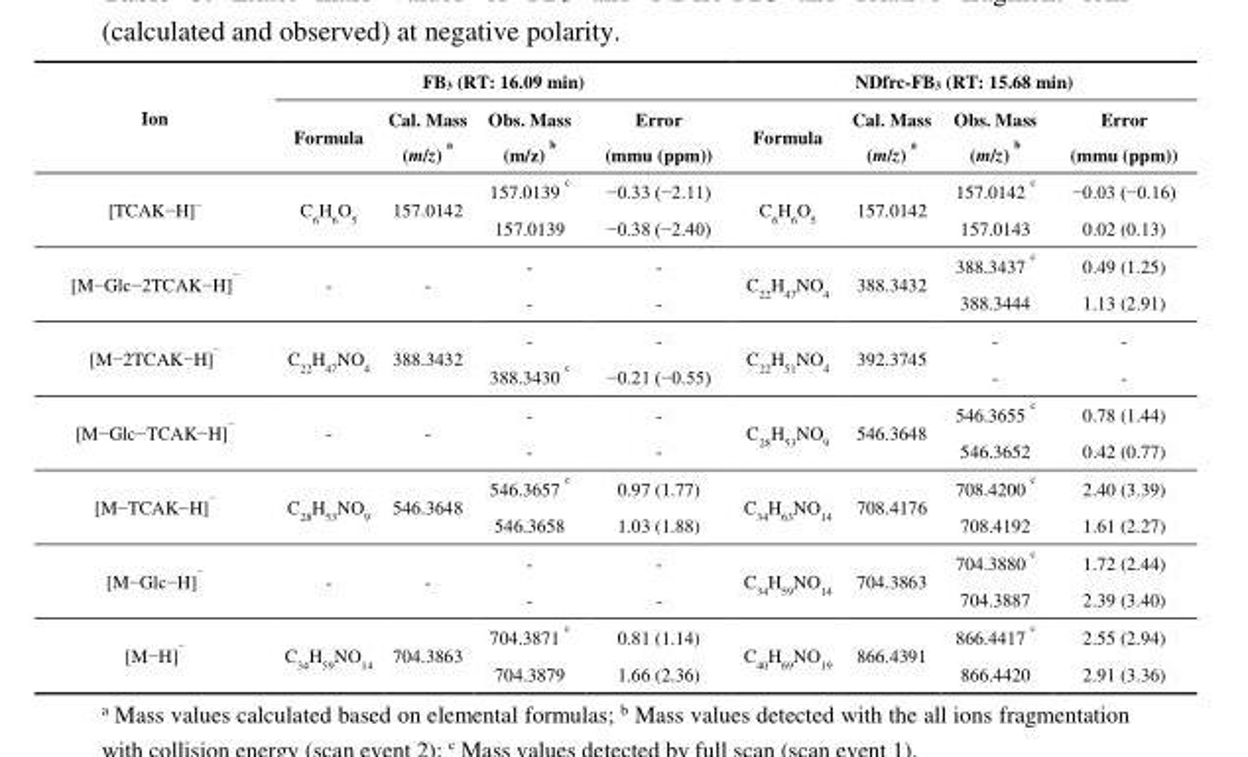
<table><thead><tr><td rowspan="2">Ion</td><td colspan="4">FB<sub>3</sub> (RT: 16.09 min)</td><td colspan="4">NDfrc-FB<sub>3</sub> (RT: 15.68 min)</td></tr><tr><td>Formula</td><td>Cal. Mass (m/z) <sup>a</sup></td><td>Obs. Mass (m/z) <sup>b</sup></td><td>Error (mmu (ppm))</td><td>Formula</td><td>Cal. Mass (m/z) <sup>a</sup></td><td>Obs. Mass (m/z) <sup>b</sup></td><td>Error (mmu (ppm))</td></tr></thead><tbody><tr><td rowspan="2">[TCAK−H]<sup>−</sup></td><td rowspan="2">C<sub>6</sub>H<sub>6</sub>O<sub>5</sub></td><td rowspan="2">157.0142</td><td>157.0139 <sup>c</sup></td><td>−0.33 (−2.11)</td><td rowspan="2">C<sub>6</sub>H<sub>6</sub>O<sub>5</sub></td><td rowspan="2">157.0142</td><td>157.0142 <sup>c</sup></td><td>−0.03 (−0.16)</td></tr><tr><td>157.0139</td><td>−0.38 (−2.40)</td><td>157.0143</td><td>0.02 (0.13)</td></tr><tr><td rowspan="2">[M−Glc−2TCAK−H] <sup>−</sup></td><td rowspan="2">-</td><td rowspan="2">-</td><td>-</td><td>-</td><td rowspan="2">C<sub>22</sub>H<sub>47</sub>NO<sub>4</sub></td><td rowspan="2">388.3432</td><td>388.3437 <sup>c</sup></td><td>0.49 (1.25)</td></tr><tr><td>-</td><td>-</td><td>388.3444</td><td>1.13 (2.91)</td></tr><tr><td rowspan="2">[M−2TCAK−H] <sup>−</sup></td><td rowspan="2">C<sub>22</sub>H<sub>47</sub>NO<sub>4</sub></td><td rowspan="2">388.3432</td><td>-</td><td>-</td><td rowspan="2">C<sub>22</sub>H<sub>51</sub>NO<sub>4</sub></td><td rowspan="2">392.3745</td><td>-</td><td>-</td></tr><tr><td>388.3430 <sup>c</sup></td><td>−0.21 (−0.55)</td><td>-</td><td>-</td></tr><tr><td rowspan="2">[M−Glc−TCAK−H] <sup>−</sup></td><td rowspan="2">-</td><td rowspan="2">-</td><td>-</td><td>-</td><td rowspan="2">C<sub>28</sub>H<sub>53</sub>NO<sub>9</sub></td><td rowspan="2">546.3648</td><td>546.3655 <sup>c</sup></td><td>0.78 (1.44)</td></tr><tr><td>-</td><td>-</td><td>546.3652</td><td>0.42 (0.77)</td></tr><tr><td rowspan="2">[M−TCAK−H] <sup>−</sup></td><td rowspan="2">C<sub>28</sub>H<sub>53</sub>NO<sub>9</sub></td><td rowspan="2">546.3648</td><td>546.3657 <sup>c</sup></td><td>0.97 (1.77)</td><td rowspan="2">C<sub>34</sub>H<sub>63</sub>NO<sub>14</sub></td><td rowspan="2">708.4176</td><td>708.4200 <sup>c</sup></td><td>2.40 (3.39)</td></tr><tr><td>546.3658</td><td>1.03 (1.88)</td><td>708.4192</td><td>1.61 (2.27)</td></tr><tr><td rowspan="2">[M−Glc−H] <sup>−</sup></td><td rowspan="2">-</td><td rowspan="2">-</td><td>-</td><td>-</td><td rowspan="2">C<sub>34</sub>H<sub>59</sub>NO<sub>14</sub></td><td rowspan="2">704.3863</td><td>704.3880 <sup>c</sup></td><td>1.72 (2.44)</td></tr><tr><td>-</td><td>-</td><td>704.3887</td><td>2.39 (3.40)</td></tr><tr><td rowspan="2">[M−H] <sup>−</sup></td><td rowspan="2">C<sub>34</sub>H<sub>59</sub>NO<sub>14</sub></td><td rowspan="2">704.3863</td><td>704.3871 <sup>c</sup></td><td>0.81 (1.14)</td><td rowspan="2">C<sub>40</sub>H<sub>69</sub>NO<sub>19</sub></td><td rowspan="2">866.4391</td><td>866.4417 <sup>c</sup></td><td>2.55 (2.94)</td></tr><tr><td>704.3879</td><td>1.66 (2.36)</td><td>866.4420</td><td>2.91 (3.36)</td></tr></tbody></table>